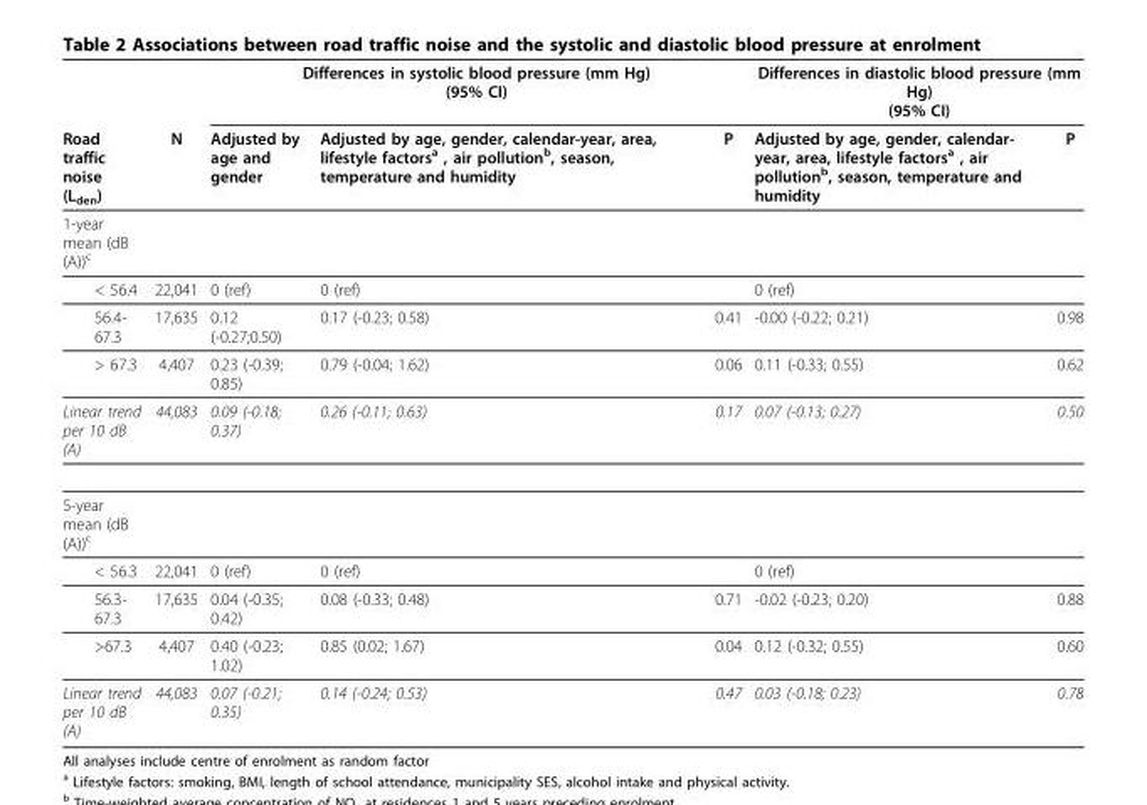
<table><thead><tr><td rowspan="2">Road traffic noise (L<sub>den</sub>)</td><td rowspan="2">N</td><td colspan="3">Differences in systolic blood pressure (mm Hg) (95% CI)</td><td colspan="2">Differences in diastolic blood pressure (mm Hg) (95% CI)</td></tr><tr><td>Adjusted by age and gender</td><td>Adjusted by age, gender, calendar-year, area, lifestyle factors<sup>a</sup> , air pollution<sup>b</sup>, season, temperature and humidity</td><td>P</td><td>Adjusted by age, gender, calendar- year, area, lifestyle factors<sup>a</sup> , air pollution<sup>b</sup>, season, temperature and humidity</td><td>P</td></tr></thead><tbody><tr><td colspan="7">1-year mean (dB (A))<sup>c</sup></td></tr><tr><td>&lt; 56.4</td><td>22,041</td><td>0 (ref)</td><td>0 (ref)</td><td></td><td>0 (ref)</td><td></td></tr><tr><td>56.4- 67.3</td><td>17,635</td><td>0.12 (-0.27;0.50)</td><td>0.17 (-0.23; 0.58)</td><td>0.41</td><td>-0.00 (-0.22; 0.21)</td><td>0.98</td></tr><tr><td>&gt; 67.3</td><td>4,407</td><td>0.23 (-0.39; 0.85)</td><td>0.79 (-0.04; 1.62)</td><td>0.06</td><td>0.11 (-0.33; 0.55)</td><td>0.62</td></tr><tr><td>Linear trend per 10 dB (A)</td><td>44,083</td><td>0.09 (-0.18; 0.37)</td><td>0.26 (-0.11; 0.63)</td><td>0.17</td><td>0.07 (-0.13; 0.27)</td><td>0.50</td></tr><tr><td colspan="7">5-year mean (dB (A))c</td></tr><tr><td>&lt; 56.3</td><td>22,041</td><td>0 (ref)</td><td>0 (ref)</td><td></td><td>0 (ref)</td><td></td></tr><tr><td>56.3- 67.3</td><td>17,635</td><td>0.04 (-0.35; 0.42)</td><td>0.08 (-0.33; 0.48)</td><td>0.71</td><td>-0.02 (-0.23; 0.20)</td><td>0.88</td></tr><tr><td>&gt;67.3</td><td>4,407</td><td>0.40 (-0.23; 1.02)</td><td>0.85 (0.02; 1.67)</td><td>0.04</td><td>0.12 (-0.32; 0.55)</td><td>0.60</td></tr><tr><td>Linear trend per 10 dB (A)</td><td>44,083</td><td>0.07 (-0.21; 0.35)</td><td>0.14 (-0.24; 0.53)</td><td>0.47</td><td>0.03 (-0.18; 0.23)</td><td>0.78</td></tr></tbody></table>